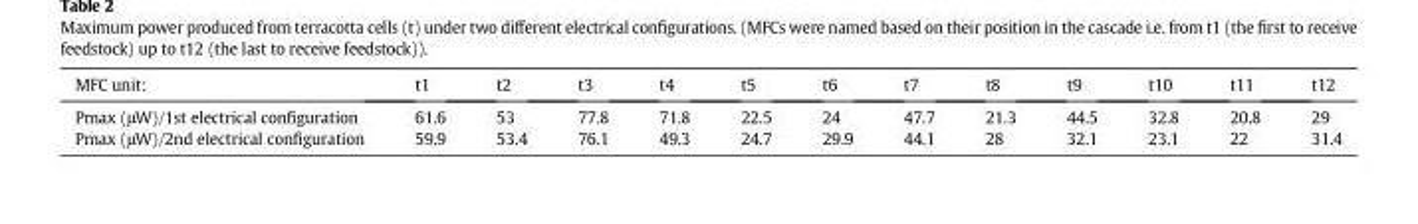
<table><thead><tr><td>MFC unit:</td><td>t1</td><td>t2</td><td>t3</td><td>t4</td><td>t5</td><td>t6</td><td>t7</td><td>t8</td><td>t9</td><td>t10</td><td>t11</td><td>t12</td></tr></thead><tbody><tr><td>Pmax (μW)/1st electrical configuration</td><td>61.6</td><td>53</td><td>77.8</td><td>71.8</td><td>22.5</td><td>24</td><td>47.7</td><td>21.3</td><td>44.5</td><td>32.8</td><td>20.8</td><td>29</td></tr><tr><td>Pmax (μW)/2nd electrical configuration</td><td>59.9</td><td>53.4</td><td>76.1</td><td>49.3</td><td>24.7</td><td>29.9</td><td>44.1</td><td>28</td><td>32.1</td><td>23.1</td><td>22</td><td>31.4</td></tr></tbody></table>